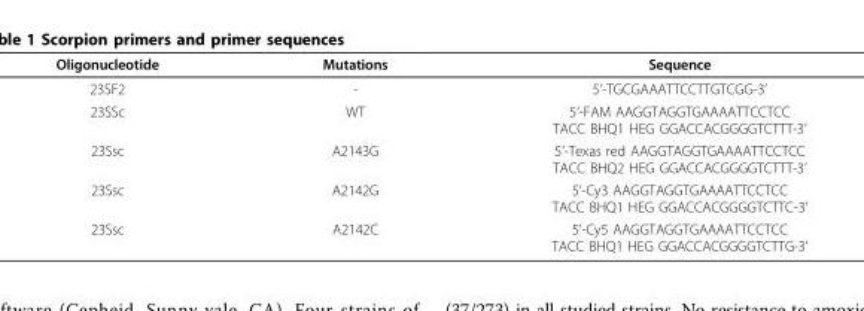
<table><thead><tr><td>Oligonucleotide</td><td>Mutations</td><td>Sequence</td></tr></thead><tbody><tr><td>23SF2</td><td>-</td><td>5’-TGCGAAATTCCTTGTCGG-3’</td></tr><tr><td>23SSc</td><td>WT</td><td>5’-FAM AAGGTAGGTGAAAATTCCTCC TACC BHQ1 HEG GGACCACGGGGTCTTT-3’</td></tr><tr><td>23Ssc</td><td>A2143G</td><td>5’-Texas red AAGGTAGGTGAAAATTCCTCC TACC BHQ2 HEG GGACCACGGGGTCTTT-3’</td></tr><tr><td>23Ssc</td><td>A2142G</td><td>5’-Cy3 AAGGTAGGTGAAAATTCCTCC TACC BHQ1 HEG GGACCACGGGGTCTTC-3’</td></tr><tr><td>23Ssc</td><td>A2142C</td><td>5’-Cy5 AAGGTAGGTGAAAATTCCTCC TACC BHQ1 HEG GGACCACGGGGTCTTG-3’</td></tr></tbody></table>